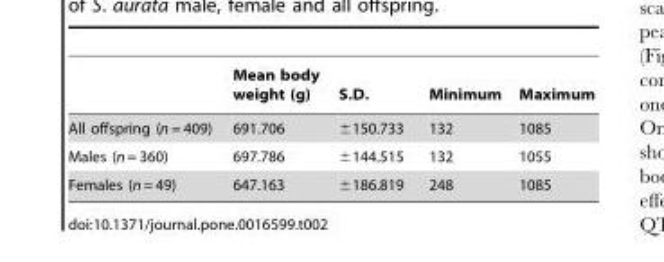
<table><thead><tr><td></td><td>Mean body weight (g)</td><td>S.D.</td><td>Minimum</td><td>Maximum</td></tr></thead><tbody><tr><td>All offspring (n = 409)</td><td>691.706</td><td>±150.733</td><td>132</td><td>1085</td></tr><tr><td>Males (n = 360)</td><td>697.786</td><td>±144.515</td><td>132</td><td>1055</td></tr><tr><td>Females (n = 49)</td><td>647.163</td><td>±186.819</td><td>248</td><td>1085</td></tr></tbody></table>